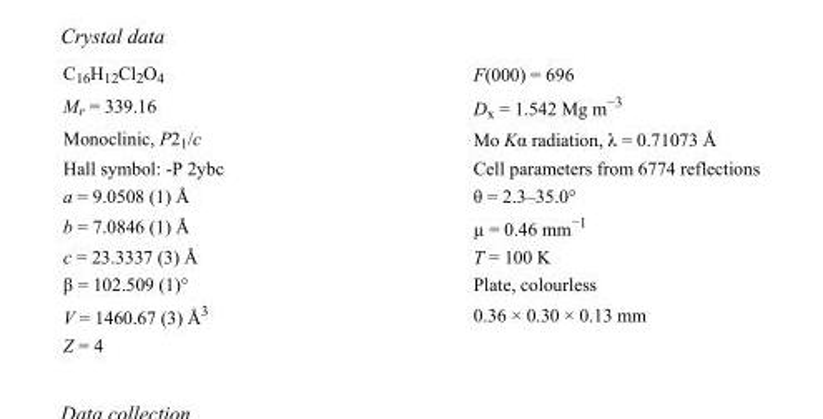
<table><tbody><tr><td>C<sub>16</sub>H<sub>12</sub>Cl<sub>2</sub>O<sub>4</sub></td><td>F(000) = 696</td></tr><tr><td>M<sub>r</sub> = 339.16</td><td>D<sub>x</sub> = 1.542 Mg m<sup>−3</sup></td></tr><tr><td>Monoclinic, P2<sub>1</sub>/c</td><td>Mo Kα radiation, λ = 0.71073 Å</td></tr><tr><td>Hall symbol: -P 2ybc</td><td>Cell parameters from 6774 reflections</td></tr><tr><td>a = 9.0508 (1) Å</td><td>θ = 2.3–35.0°</td></tr><tr><td>b = 7.0846 (1) Å</td><td>µ = 0.46 mm<sup>−1</sup></td></tr><tr><td>c = 23.3337 (3) Å</td><td>T = 100 K</td></tr><tr><td>β = 102.509 (1)°</td><td>Plate, colourless</td></tr><tr><td>V = 1460.67 (3) Å<sup>3</sup></td><td>0.36 × 0.30 × 0.13 mm</td></tr><tr><td>Z = 4</td><td></td></tr></tbody></table>